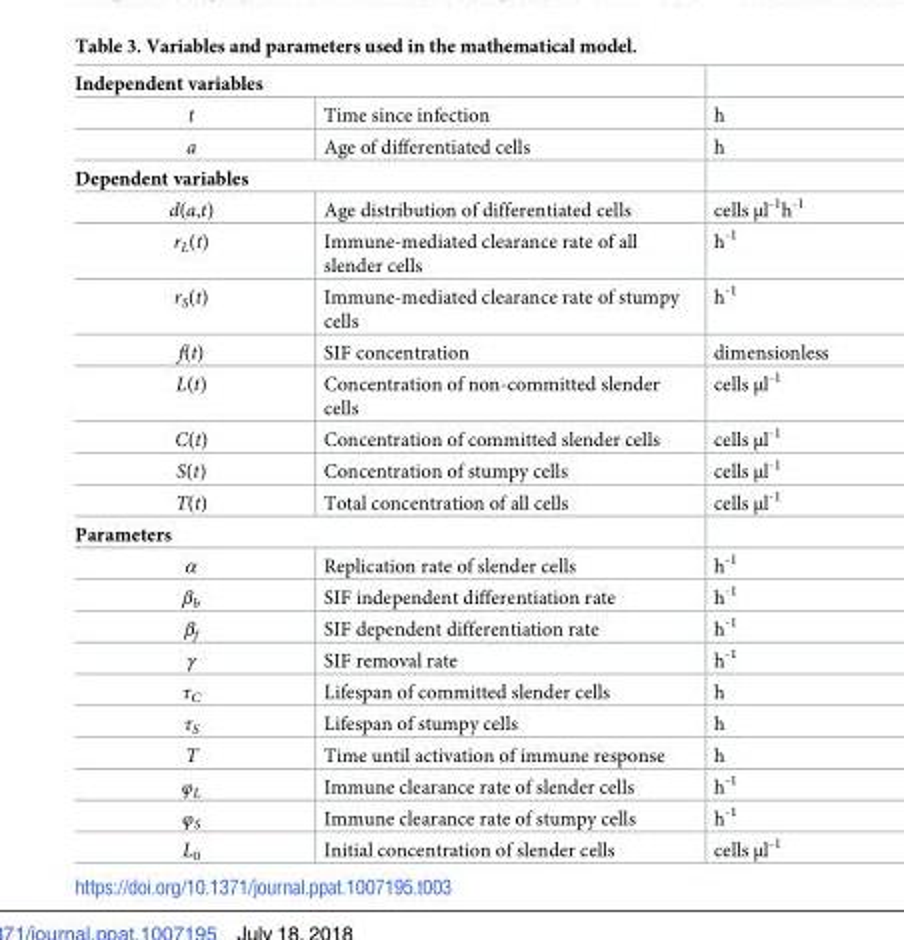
<table><tbody><tr><td colspan="3">Independent variables</td></tr><tr><td>t</td><td>Time since infection</td><td>h</td></tr><tr><td>a</td><td>Age of differentiated cells</td><td>h</td></tr><tr><td colspan="3">Dependent variables</td></tr><tr><td>d(a,t)</td><td>Age distribution of differentiated cells</td><td>cells μl<sup>-1</sup>h<sup>-1</sup></td></tr><tr><td>r<sub>L</sub>(t)</td><td>Immune-mediated clearance rate of all slender cells</td><td>h<sup>-1</sup></td></tr><tr><td>r<sub>S</sub>(t)</td><td>Immune-mediated clearance rate of stumpy cells</td><td>h<sup>-1</sup></td></tr><tr><td>f(t)</td><td>SIF concentration</td><td>dimensionless</td></tr><tr><td>L(t)</td><td>Concentration of non-committed slender cells</td><td>cells μl<sup>-1</sup></td></tr><tr><td>C(t)</td><td>Concentration of committed slender cells</td><td>cells μl<sup>-1</sup></td></tr><tr><td>S(t)</td><td>Concentration of stumpy cells</td><td>cells μl<sup>-1</sup></td></tr><tr><td>T(t)</td><td>Total concentration of all cells</td><td>cells μl<sup>-1</sup></td></tr><tr><td colspan="3">Parameters</td></tr><tr><td>α</td><td>Replication rate of slender cells</td><td>h<sup>-1</sup></td></tr><tr><td>β<sub>b</sub></td><td>SIF independent differentiation rate</td><td>h<sup>-1</sup></td></tr><tr><td>β<sub>f</sub></td><td>SIF dependent differentiation rate</td><td>h<sup>-1</sup></td></tr><tr><td>γ</td><td>SIF removal rate</td><td>h<sup>-1</sup></td></tr><tr><td>τ<sub>C</sub></td><td>Lifespan of committed slender cells</td><td>h</td></tr><tr><td>τ<sub>S</sub></td><td>Lifespan of stumpy cells</td><td>h</td></tr><tr><td>T</td><td>Time until activation of immune response</td><td>h</td></tr><tr><td>φ<sub>L</sub></td><td>Immune clearance rate of slender cells</td><td>h<sup>-1</sup></td></tr><tr><td>φ<sub>S</sub></td><td>Immune clearance rate of stumpy cells</td><td>h<sup>-1</sup></td></tr><tr><td>L<sub>0</sub></td><td>Initial concentration of slender cells</td><td>cells μl<sup>-1</sup></td></tr></tbody></table>